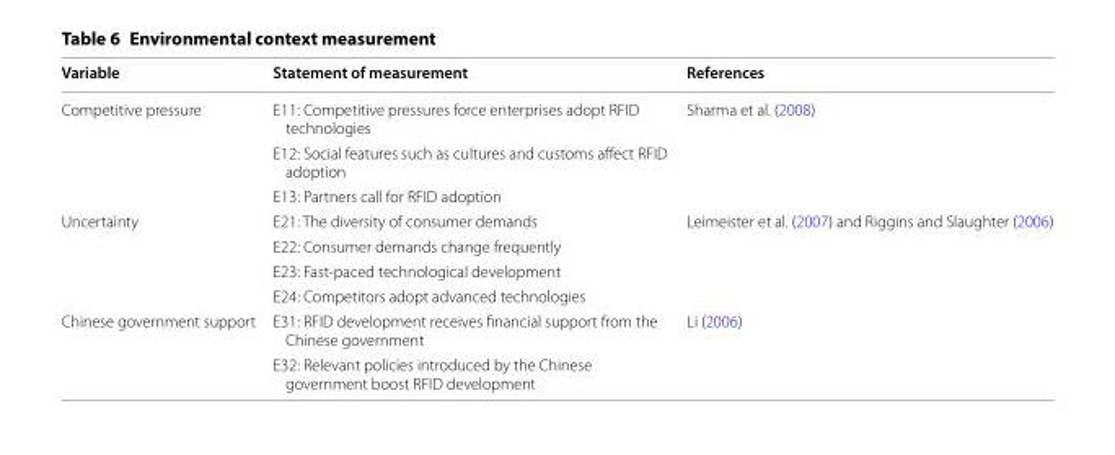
<table><thead><tr><td>Variable</td><td>Statement of measurement</td><td>References</td></tr></thead><tbody><tr><td rowspan="3">Competitive pressure</td><td>E11: Competitive pressures force enterprises adopt RFID technologies</td><td rowspan="3">Sharma et al. (2008)</td></tr><tr><td>E12: Social features such as cultures and customs affect RFID adoption</td></tr><tr><td>E13: Partners call for RFID adoption</td></tr><tr><td rowspan="4">Uncertainty</td><td>E21: The diversity of consumer demands</td><td rowspan="4">Leimeister et al. (2007) and Riggins and Slaughter (2006)</td></tr><tr><td>E22: Consumer demands change frequently</td></tr><tr><td>E23: Fast-paced technological development</td></tr><tr><td>E24: Competitors adopt advanced technologies</td></tr><tr><td rowspan="2">Chinese government support</td><td>E31: RFID development receives financial support from the Chinese government</td><td rowspan="2">Li (2006)</td></tr><tr><td>E32: Relevant policies introduced by the Chinese government boost RFID development</td></tr></tbody></table>